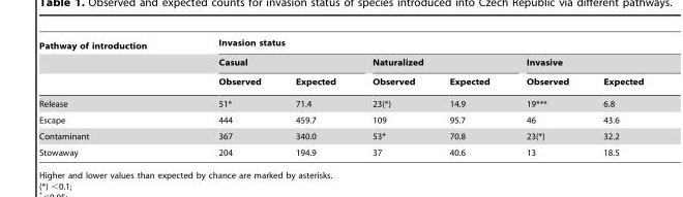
<table><thead><tr><td rowspan="3">Pathway of introduction</td><td colspan="6">Invasion status</td></tr><tr><td colspan="2">Casual</td><td colspan="2">Naturalized</td><td colspan="2">Invasive</td></tr><tr><td>Observed</td><td>Expected</td><td>Observed</td><td>Expected</td><td>Observed</td><td>Expected</td></tr></thead><tbody><tr><td>Release</td><td>51*</td><td>71.4</td><td>23(*)</td><td>14.9</td><td>19***</td><td>6.8</td></tr><tr><td>Escape</td><td>444</td><td>459.7</td><td>109</td><td>95.7</td><td>46</td><td>43.6</td></tr><tr><td>Contaminant</td><td>367</td><td>340.0</td><td>53*</td><td>70.8</td><td>23(*)</td><td>32.2</td></tr><tr><td>Stowaway</td><td>204</td><td>194.9</td><td>37</td><td>40.6</td><td>13</td><td>18.5</td></tr></tbody></table>